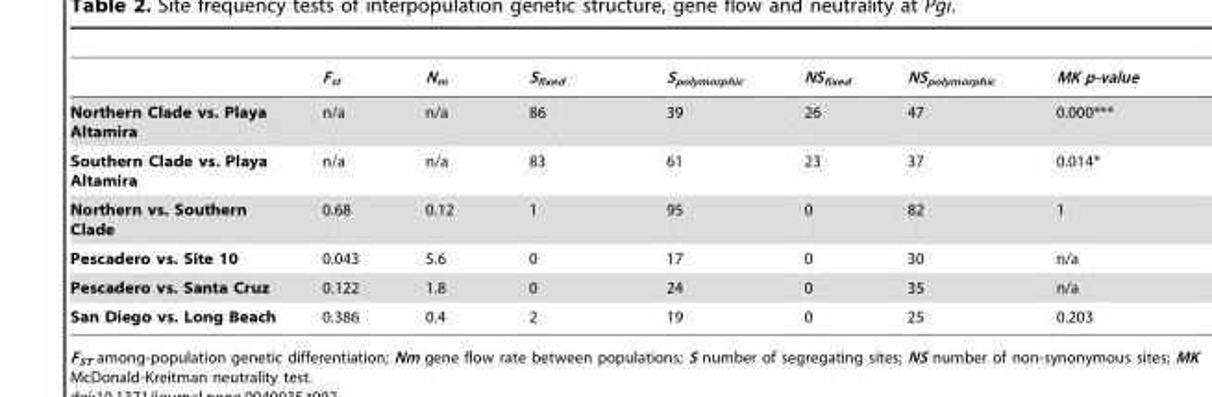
<table><thead><tr><td></td><td>F<sub>st</sub></td><td>N<sub>m</sub></td><td>S<sub>fixed</sub></td><td>S<sub>polymorphic</sub></td><td>NS<sub>fixed</sub></td><td>NS<sub>polymorphic</sub></td><td>MK p-value</td></tr></thead><tbody><tr><td>Northern Clade vs. Playa Altamira</td><td>n/a</td><td>n/a</td><td>86</td><td>39</td><td>26</td><td>47</td><td>0.000***</td></tr><tr><td>Southern Clade vs. Playa Altamira</td><td>n/a</td><td>n/a</td><td>83</td><td>61</td><td>23</td><td>37</td><td>0.014*</td></tr><tr><td>Northern vs. Southern Clade</td><td>0.68</td><td>0.12</td><td>1</td><td>95</td><td>0</td><td>82</td><td>1</td></tr><tr><td>Pescadero vs. Site 10</td><td>0.043</td><td>5.6</td><td>0</td><td>17</td><td>0</td><td>30</td><td>n/a</td></tr><tr><td>Pescadero vs. Santa Cruz</td><td>0.122</td><td>1.8</td><td>0</td><td>24</td><td>0</td><td>35</td><td>n/a</td></tr><tr><td>San Diego vs. Long Beach</td><td>0.386</td><td>0.4</td><td>2</td><td>19</td><td>0</td><td>25</td><td>0.203</td></tr></tbody></table>